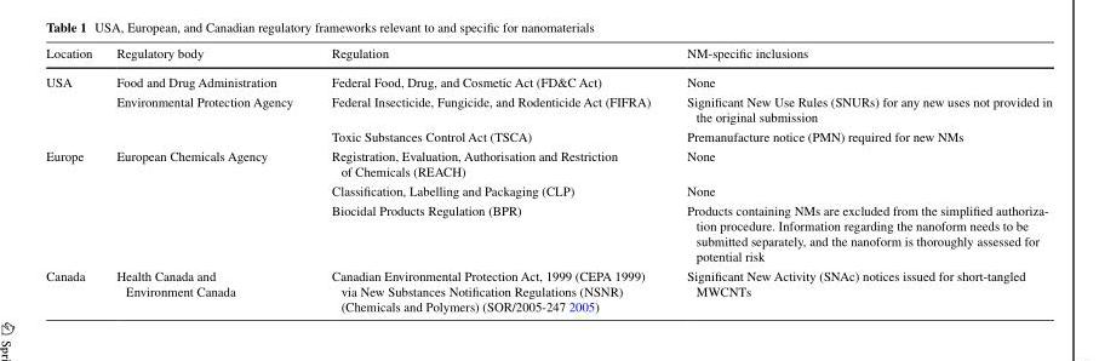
<table><thead><tr><td>Location</td><td>Regulatory body</td><td>Regulation</td><td>NM-specific inclusions</td></tr></thead><tbody><tr><td rowspan="3">USA</td><td>Food and Drug Administration</td><td>Federal Food, Drug, and Cosmetic Act (FD&amp;C Act)</td><td>None</td></tr><tr><td rowspan="2">Environmental Protection Agency</td><td>Federal Insecticide, Fungicide, and Rodenticide Act (FIFRA)</td><td>Significant New Use Rules (SNURs) for any new uses not provided in the original submission</td></tr><tr><td>Toxic Substances Control Act (TSCA)</td><td>Premanufacture notice (PMN) required for new NMs</td></tr><tr><td rowspan="3">Europe</td><td rowspan="3">European Chemicals Agency</td><td>Registration, Evaluation, Authorisation and Restriction of Chemicals (REACH)</td><td>None</td></tr><tr><td>Classification, Labelling and Packaging (CLP)</td><td>None</td></tr><tr><td>Biocidal Products Regulation (BPR)</td><td>Products containing NMs are excluded from the simplified authoriza- tion procedure. Information regarding the nanoform needs to be submitted separately, and the nanoform is thoroughly assessed for potential risk</td></tr><tr><td>Canada</td><td>Health Canada and Environment Canada</td><td>Canadian Environmental Protection Act, 1999 (CEPA 1999) via New Substances Notification Regulations (NSNR) (Chemicals and Polymers) (SOR/2005-247 2005)</td><td>Significant New Activity (SNAc) notices issued for short-tangled MWCNTs</td></tr></tbody></table>